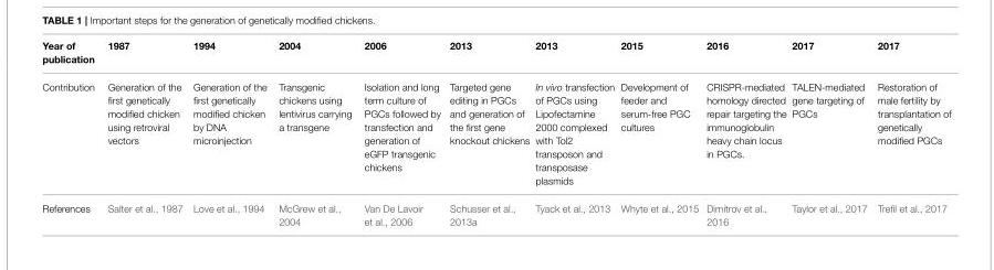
<table><thead><tr><td>Year of publication</td><td>1987</td><td>1994</td><td>2004</td><td>2006</td><td>2013</td><td>2013</td><td>2015</td><td>2016</td><td>2017</td><td>2017</td></tr></thead><tbody><tr><td>Contribution</td><td>Generation of the first genetically modified chicken using retroviral vectors</td><td>Generation of the first genetically modified chicken by DNA microinjection</td><td>Transgenic chickens using lentivirus carrying a transgene</td><td>Isolation and long term culture of PGCs followed by transfection and generation of eGFP transgenic chickens</td><td>Targeted gene editing in PGCs and generation of the first gene knockout chickens</td><td>In vivo transfection of PGCs using Lipofectamine 2000 complexed with Tol2 transposon and transposase plasmids</td><td>Development of feeder and serum-free PGC cultures</td><td>CRISPR-mediated homology directed repair targeting the immunoglobulin heavy chain locus in PGCs.</td><td>TALEN-mediated gene targeting of PGCs</td><td>Restoration of male fertility by transplantation of genetically modified PGCs</td></tr><tr><td>References</td><td>Salter et al., 1987</td><td>Love et al., 1994</td><td>McGrew et al., 2004</td><td>Van De Lavoir et al., 2006</td><td>Schusser et al., 2013a</td><td>Tyack et al., 2013</td><td>Whyte et al., 2015</td><td>Dimitrov et al., 2016</td><td>Taylor et al., 2017</td><td>Trefil et al., 2017</td></tr></tbody></table>